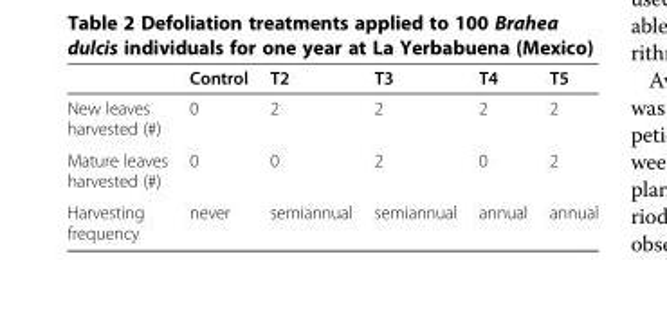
<table><thead><tr><td></td><td>Control</td><td>T2</td><td>T3</td><td>T4</td><td>T5</td></tr></thead><tbody><tr><td>New leaves harvested (#)</td><td>0</td><td>2</td><td>2</td><td>2</td><td>2</td></tr><tr><td>Mature leaves harvested (#)</td><td>0</td><td>0</td><td>2</td><td>0</td><td>2</td></tr><tr><td>Harvesting frequency</td><td>never</td><td>semiannual</td><td>semiannual</td><td>annual</td><td>annual</td></tr></tbody></table>